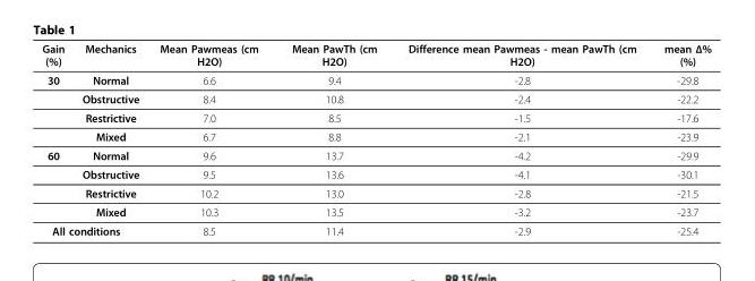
<table><thead><tr><td>Gain (%)</td><td>Mechanics</td><td>Mean Pawmeas (cm H2O)</td><td>Mean PawTh (cm H2O)</td><td>Difference mean Pawmeas - mean PawTh (cm H2O)</td><td>mean Δ% (%)</td></tr></thead><tbody><tr><td rowspan="4">30</td><td>Normal</td><td>6.6</td><td>9.4</td><td>-2.8</td><td>-29.8</td></tr><tr><td>Obstructive</td><td>8.4</td><td>10.8</td><td>-2.4</td><td>-22.2</td></tr><tr><td>Restrictive</td><td>7.0</td><td>8.5</td><td>-1.5</td><td>-17.6</td></tr><tr><td>Mixed</td><td>6.7</td><td>8.8</td><td>-2.1</td><td>-23.9</td></tr><tr><td rowspan="4">60</td><td>Normal</td><td>9.6</td><td>13.7</td><td>-4.2</td><td>-29.9</td></tr><tr><td>Obstructive</td><td>9.5</td><td>13.6</td><td>-4.1</td><td>-30.1</td></tr><tr><td>Restrictive</td><td>10.2</td><td>13.0</td><td>-2.8</td><td>-21.5</td></tr><tr><td>Mixed</td><td>10.3</td><td>13.5</td><td>-3.2</td><td>-23.7</td></tr><tr><td colspan="2">All conditions</td><td>8.5</td><td>11.4</td><td>-2.9</td><td>-25.4</td></tr></tbody></table>